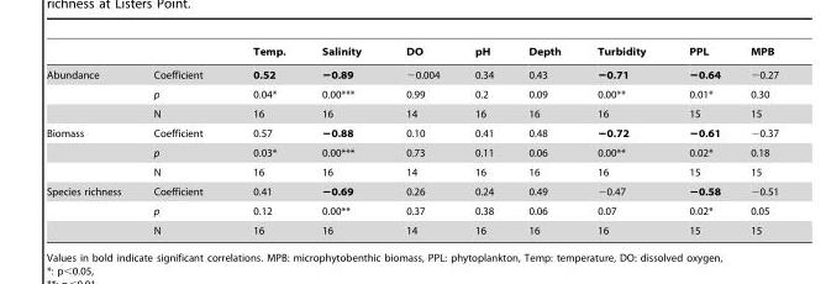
<table><thead><tr><td></td><td></td><td>Temp.</td><td>Salinity</td><td>DO</td><td>pH</td><td>Depth</td><td>Turbidity</td><td>PPL</td><td>MPB</td></tr></thead><tbody><tr><td rowspan="3">Abundance</td><td>Coefficient</td><td>0.52</td><td>−0.89</td><td>−0.004</td><td>0.34</td><td>0.43</td><td>−0.71</td><td>−0.64</td><td>−0.27</td></tr><tr><td>p</td><td>0.04*</td><td>0.00***</td><td>0.99</td><td>0.2</td><td>0.09</td><td>0.00**</td><td>0.01*</td><td>0.30</td></tr><tr><td>N</td><td>16</td><td>16</td><td>14</td><td>16</td><td>16</td><td>16</td><td>15</td><td>15</td></tr><tr><td rowspan="3">Biomass</td><td>Coefficient</td><td>0.57</td><td>−0.88</td><td>0.10</td><td>0.41</td><td>0.48</td><td>−0.72</td><td>−0.61</td><td>−0.37</td></tr><tr><td>p</td><td>0.03*</td><td>0.00***</td><td>0.73</td><td>0.11</td><td>0.06</td><td>0.00**</td><td>0.02*</td><td>0.18</td></tr><tr><td>N</td><td>16</td><td>16</td><td>14</td><td>16</td><td>16</td><td>16</td><td>15</td><td>15</td></tr><tr><td rowspan="3">Species richness</td><td>Coefficient</td><td>0.41</td><td>−0.69</td><td>0.26</td><td>0.24</td><td>0.49</td><td>−0.47</td><td>−0.58</td><td>−0.51</td></tr><tr><td>p</td><td>0.12</td><td>0.00**</td><td>0.37</td><td>0.38</td><td>0.06</td><td>0.07</td><td>0.02*</td><td>0.05</td></tr><tr><td>N</td><td>16</td><td>16</td><td>14</td><td>16</td><td>16</td><td>16</td><td>15</td><td>15</td></tr></tbody></table>